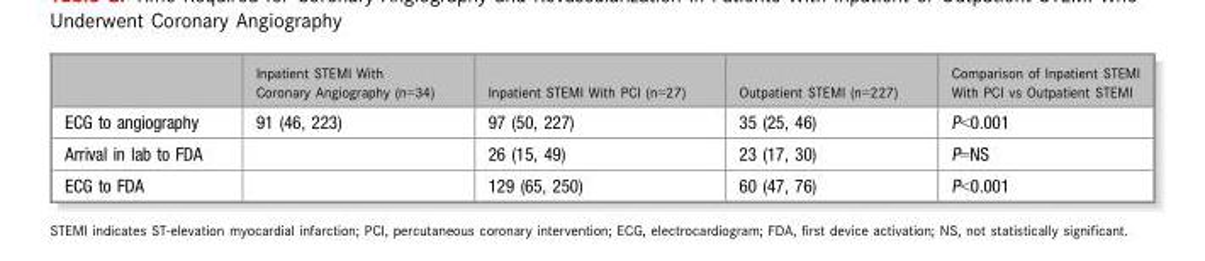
<table><thead><tr><td></td><td>Inpatient STEMI With Coronary Angiography (n=34)</td><td>Inpatient STEMI With PCI (n=27)</td><td>Outpatient STEMI (n=227)</td><td>Comparison of Inpatient STEMI With PCI vs Outpatient STEMI</td></tr></thead><tbody><tr><td>ECG to angiography</td><td>91 (46, 223)</td><td>97 (50, 227)</td><td>35 (25, 46)</td><td>P&lt;0.001</td></tr><tr><td>Arrival in lab to FDA</td><td></td><td>26 (15, 49)</td><td>23 (17, 30)</td><td>P=NS</td></tr><tr><td>ECG to FDA</td><td></td><td>129 (65, 250)</td><td>60 (47, 76)</td><td>P&lt;0.001</td></tr></tbody></table>